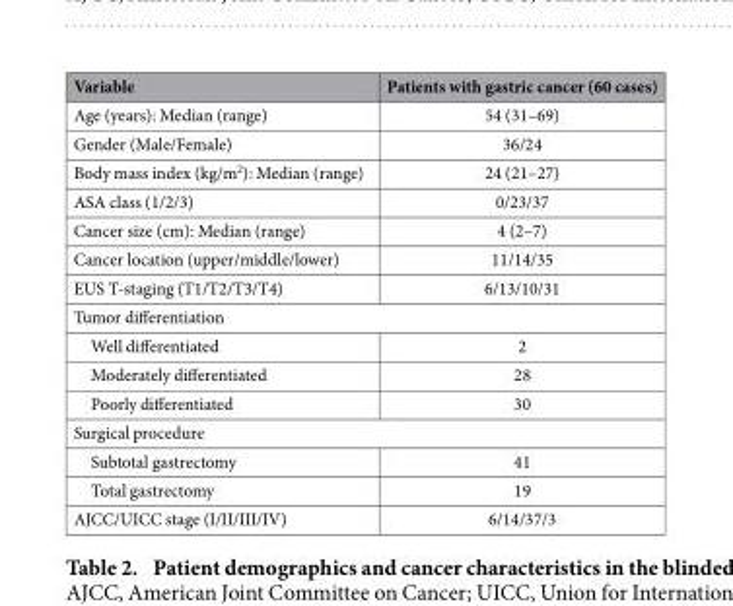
<table><thead><tr><td>Variable</td><td>Patients with gastric cancer (60 cases)</td></tr></thead><tbody><tr><td>Age (years): Median (range)</td><td>54 (31–69)</td></tr><tr><td>Gender (Male/Female)</td><td>36/24</td></tr><tr><td>Body mass index (kg/m<sup>2</sup>): Median (range)</td><td>24 (21–27)</td></tr><tr><td>ASA class (1/2/3)</td><td>0/23/37</td></tr><tr><td>Cancer size (cm): Median (range)</td><td>4 (2–7)</td></tr><tr><td>Cancer location (upper/middle/lower)</td><td>11/14/35</td></tr><tr><td>EUS T-staging (T1/T2/T3/T4)</td><td>6/13/10/31</td></tr><tr><td colspan="2">Tumor differentiation</td></tr><tr><td>Well differentiated</td><td>2</td></tr><tr><td>Moderately differentiated</td><td>28</td></tr><tr><td>Poorly differentiated</td><td>30</td></tr><tr><td colspan="2">Surgical procedure</td></tr><tr><td>Subtotal gastrectomy</td><td>41</td></tr><tr><td>Total gastrectomy</td><td>19</td></tr><tr><td>AJCC/UICC stage (I/II/III/IV)</td><td>6/14/37/3</td></tr></tbody></table>